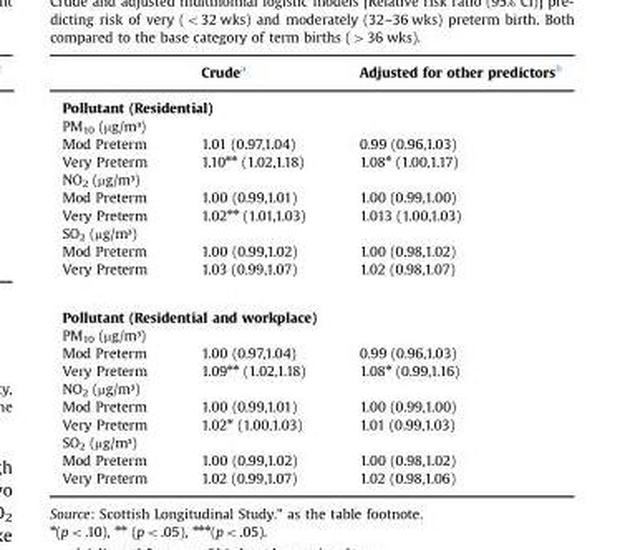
<table><thead><tr><td></td><td>Crude<sup>a</sup></td><td>Adjusted for other predictors<sup>b</sup></td></tr></thead><tbody><tr><td colspan="3">Pollutant (Residential)</td></tr><tr><td colspan="3">PM<sub>10</sub> (µg/m³)</td></tr><tr><td>Mod Preterm</td><td>1.01 (0.97,1.04)</td><td>0.99 (0.96,1.03)</td></tr><tr><td>Very Preterm</td><td>1.10<sup>⁎⁎</sup> (1.02,1.18)</td><td>1.08<sup>⁎</sup> (1.00,1.17)</td></tr><tr><td colspan="3">NO<sub>2</sub> (µg/m³)</td></tr><tr><td>Mod Preterm</td><td>1.00 (0.99,1.01)</td><td>1.00 (0.99,1.00)</td></tr><tr><td>Very Preterm</td><td>1.02<sup>⁎⁎</sup> (1.01,1.03)</td><td>1.013 (1.00,1.03)</td></tr><tr><td colspan="3">SO<sub>2</sub> (µg/m³)</td></tr><tr><td>Mod Preterm</td><td>1.00 (0.99,1.02)</td><td>1.00 (0.98,1.02)</td></tr><tr><td>Very Preterm</td><td>1.03 (0.99,1.07)</td><td>1.02 (0.98,1.07)</td></tr><tr><td colspan="3">Pollutant (Residential and workplace)</td></tr><tr><td colspan="3">PM<sub>10</sub> (µg/m³)</td></tr><tr><td>Mod Preterm</td><td>1.00 (0.97,1.04)</td><td>0.99 (0.96,1.03)</td></tr><tr><td>Very Preterm</td><td>1.09<sup>⁎⁎</sup> (1.02,1.18)</td><td>1.08<sup>⁎</sup> (0.99,1.16)</td></tr><tr><td colspan="3">NO<sub>2</sub> (µg/m³)</td></tr><tr><td>Mod Preterm</td><td>1.00 (0.99,1.01)</td><td>1.00 (0.99,1.00)</td></tr><tr><td>Very Preterm</td><td>1.02<sup>⁎</sup> (1.00,1.03)</td><td>1.01 (0.99,1.03)</td></tr><tr><td colspan="3">SO<sub>2</sub> (µg/m³)</td></tr><tr><td>Mod Preterm</td><td>1.00 (0.99,1.02)</td><td>1.00 (0.98,1.02)</td></tr><tr><td>Very Preterm</td><td>1.02 (0.99,1.07)</td><td>1.02 (0.98,1.06)</td></tr></tbody></table>